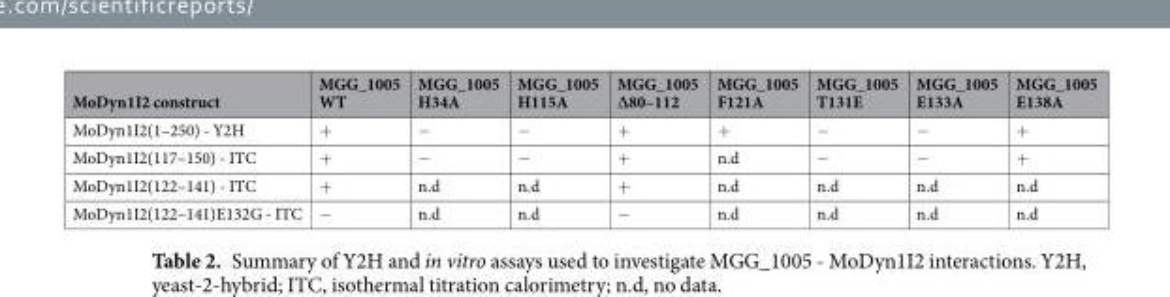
<table><thead><tr><td>MoDyn1I2 construct</td><td>MGG_1005 WT</td><td>MGG_1005 H34A</td><td>MGG_1005 H115A</td><td>MGG_1005 ∆80–112</td><td>MGG_1005 F121A</td><td>MGG_1005 T131E</td><td>MGG_1005 E133A</td><td>MGG_1005 E138A</td></tr></thead><tbody><tr><td>MoDyn1I2(1–250) - Y2H</td><td>+</td><td>−</td><td>−</td><td>+</td><td>+</td><td>−</td><td>−</td><td>+</td></tr><tr><td>MoDyn1I2(117–150) - ITC</td><td>+</td><td>−</td><td>−</td><td>+</td><td>n.d</td><td>−</td><td>−</td><td>+</td></tr><tr><td>MoDyn1I2(122–141) - ITC</td><td>+</td><td>n.d</td><td>n.d</td><td>+</td><td>n.d</td><td>n.d</td><td>n.d</td><td>n.d</td></tr><tr><td>MoDyn1I2(122–141)E132G - ITC</td><td>−</td><td>n.d</td><td>n.d</td><td>−</td><td>n.d</td><td>n.d</td><td>n.d</td><td>n.d</td></tr></tbody></table>